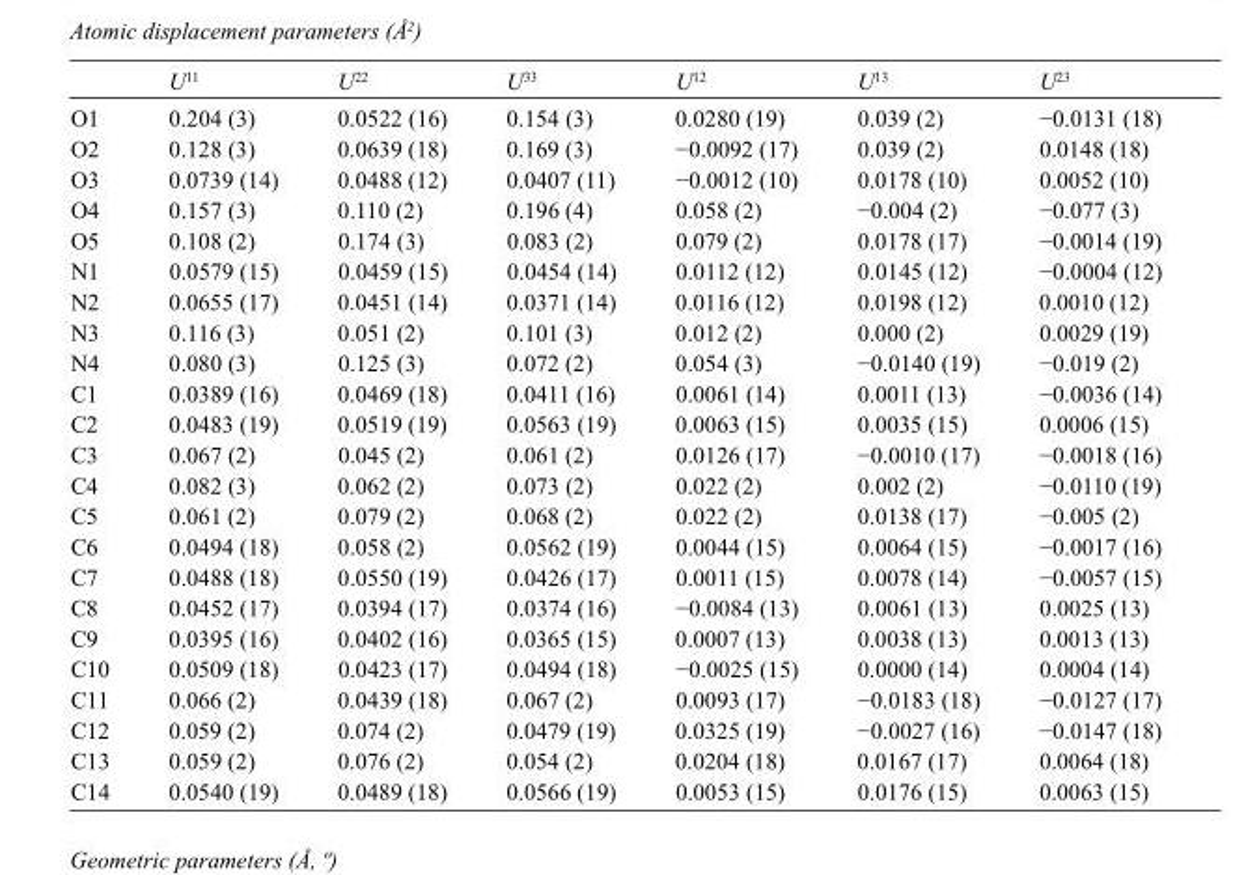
<table><thead><tr><td></td><td>U<sup>11</sup></td><td>U<sup>22</sup></td><td>U<sup>33</sup></td><td>U<sup>12</sup></td><td>U<sup>13</sup></td><td>U<sup>23</sup></td></tr></thead><tbody><tr><td>O1</td><td>0.204 (3)</td><td>0.0522 (16)</td><td>0.154 (3)</td><td>0.0280 (19)</td><td>0.039 (2)</td><td>−0.0131 (18)</td></tr><tr><td>O2</td><td>0.128 (3)</td><td>0.0639 (18)</td><td>0.169 (3)</td><td>−0.0092 (17)</td><td>0.039 (2)</td><td>0.0148 (18)</td></tr><tr><td>O3</td><td>0.0739 (14)</td><td>0.0488 (12)</td><td>0.0407 (11)</td><td>−0.0012 (10)</td><td>0.0178 (10)</td><td>0.0052 (10)</td></tr><tr><td>O4</td><td>0.157 (3)</td><td>0.110 (2)</td><td>0.196 (4)</td><td>0.058 (2)</td><td>−0.004 (2)</td><td>−0.077 (3)</td></tr><tr><td>O5</td><td>0.108 (2)</td><td>0.174 (3)</td><td>0.083 (2)</td><td>0.079 (2)</td><td>0.0178 (17)</td><td>−0.0014 (19)</td></tr><tr><td>N1</td><td>0.0579 (15)</td><td>0.0459 (15)</td><td>0.0454 (14)</td><td>0.0112 (12)</td><td>0.0145 (12)</td><td>−0.0004 (12)</td></tr><tr><td>N2</td><td>0.0655 (17)</td><td>0.0451 (14)</td><td>0.0371 (14)</td><td>0.0116 (12)</td><td>0.0198 (12)</td><td>0.0010 (12)</td></tr><tr><td>N3</td><td>0.116 (3)</td><td>0.051 (2)</td><td>0.101 (3)</td><td>0.012 (2)</td><td>0.000 (2)</td><td>0.0029 (19)</td></tr><tr><td>N4</td><td>0.080 (3)</td><td>0.125 (3)</td><td>0.072 (2)</td><td>0.054 (3)</td><td>−0.0140 (19)</td><td>−0.019 (2)</td></tr><tr><td>C1</td><td>0.0389 (16)</td><td>0.0469 (18)</td><td>0.0411 (16)</td><td>0.0061 (14)</td><td>0.0011 (13)</td><td>−0.0036 (14)</td></tr><tr><td>C2</td><td>0.0483 (19)</td><td>0.0519 (19)</td><td>0.0563 (19)</td><td>0.0063 (15)</td><td>0.0035 (15)</td><td>0.0006 (15)</td></tr><tr><td>C3</td><td>0.067 (2)</td><td>0.045 (2)</td><td>0.061 (2)</td><td>0.0126 (17)</td><td>−0.0010 (17)</td><td>−0.0018 (16)</td></tr><tr><td>C4</td><td>0.082 (3)</td><td>0.062 (2)</td><td>0.073 (2)</td><td>0.022 (2)</td><td>0.002 (2)</td><td>−0.0110 (19)</td></tr><tr><td>C5</td><td>0.061 (2)</td><td>0.079 (2)</td><td>0.068 (2)</td><td>0.022 (2)</td><td>0.0138 (17)</td><td>−0.005 (2)</td></tr><tr><td>C6</td><td>0.0494 (18)</td><td>0.058 (2)</td><td>0.0562 (19)</td><td>0.0044 (15)</td><td>0.0064 (15)</td><td>−0.0017 (16)</td></tr><tr><td>C7</td><td>0.0488 (18)</td><td>0.0550 (19)</td><td>0.0426 (17)</td><td>0.0011 (15)</td><td>0.0078 (14)</td><td>−0.0057 (15)</td></tr><tr><td>C8</td><td>0.0452 (17)</td><td>0.0394 (17)</td><td>0.0374 (16)</td><td>−0.0084 (13)</td><td>0.0061 (13)</td><td>0.0025 (13)</td></tr><tr><td>C9</td><td>0.0395 (16)</td><td>0.0402 (16)</td><td>0.0365 (15)</td><td>0.0007 (13)</td><td>0.0038 (13)</td><td>0.0013 (13)</td></tr><tr><td>C10</td><td>0.0509 (18)</td><td>0.0423 (17)</td><td>0.0494 (18)</td><td>−0.0025 (15)</td><td>0.0000 (14)</td><td>0.0004 (14)</td></tr><tr><td>C11</td><td>0.066 (2)</td><td>0.0439 (18)</td><td>0.067 (2)</td><td>0.0093 (17)</td><td>−0.0183 (18)</td><td>−0.0127 (17)</td></tr><tr><td>C12</td><td>0.059 (2)</td><td>0.074 (2)</td><td>0.0479 (19)</td><td>0.0325 (19)</td><td>−0.0027 (16)</td><td>−0.0147 (18)</td></tr><tr><td>C13</td><td>0.059 (2)</td><td>0.076 (2)</td><td>0.054 (2)</td><td>0.0204 (18)</td><td>0.0167 (17)</td><td>0.0064 (18)</td></tr><tr><td>C14</td><td>0.0540 (19)</td><td>0.0489 (18)</td><td>0.0566 (19)</td><td>0.0053 (15)</td><td>0.0176 (15)</td><td>0.0063 (15)</td></tr></tbody></table>